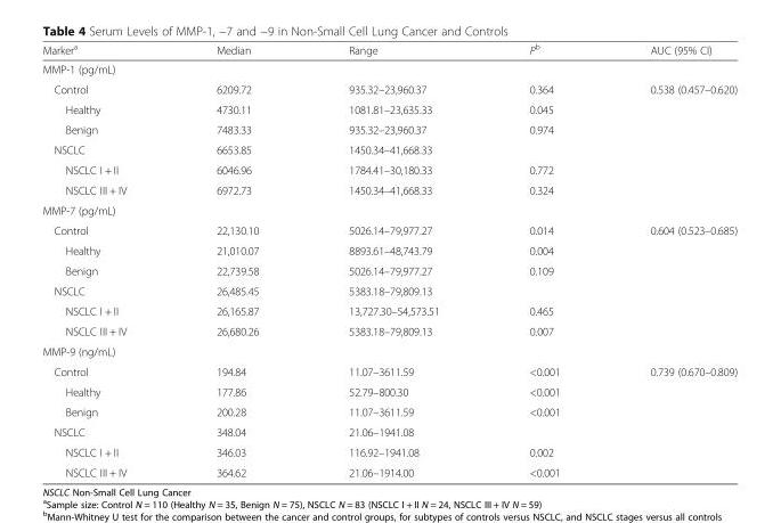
<table><thead><tr><td>Marker<sup>a</sup></td><td>Median</td><td>Range</td><td>P<sup>b</sup></td><td>AUC (95% CI)</td></tr></thead><tbody><tr><td colspan="5">MMP-1 (pg/mL)</td></tr><tr><td>Control</td><td>6209.72</td><td>935.32–23,960.37</td><td>0.364</td><td>0.538 (0.457–0.620)</td></tr><tr><td>Healthy</td><td>4730.11</td><td>1081.81–23,635.33</td><td>0.045</td><td></td></tr><tr><td>Benign</td><td>7483.33</td><td>935.32–23,960.37</td><td>0.974</td><td></td></tr><tr><td>NSCLC</td><td>6653.85</td><td>1450.34–41,668.33</td><td></td><td></td></tr><tr><td>NSCLC I + II</td><td>6046.96</td><td>1784.41–30,180.33</td><td>0.772</td><td></td></tr><tr><td>NSCLC III + IV</td><td>6972.73</td><td>1450.34–41,668.33</td><td>0.324</td><td></td></tr><tr><td colspan="5">MMP-7 (pg/mL)</td></tr><tr><td>Control</td><td>22,130.10</td><td>5026.14–79,977.27</td><td>0.014</td><td>0.604 (0.523–0.685)</td></tr><tr><td>Healthy</td><td>21,010.07</td><td>8893.61–48,743.79</td><td>0.004</td><td></td></tr><tr><td>Benign</td><td>22,739.58</td><td>5026.14–79,977.27</td><td>0.109</td><td></td></tr><tr><td>NSCLC</td><td>26,485.45</td><td>5383.18–79,809.13</td><td></td><td></td></tr><tr><td>NSCLC I + II</td><td>26,165.87</td><td>13,727.30–54,573.51</td><td>0.465</td><td></td></tr><tr><td>NSCLC III + IV</td><td>26,680.26</td><td>5383.18–79,809.13</td><td>0.007</td><td></td></tr><tr><td colspan="5">MMP-9 (ng/mL)</td></tr><tr><td>Control</td><td>194.84</td><td>11.07–3611.59</td><td>&lt;0.001</td><td>0.739 (0.670–0.809)</td></tr><tr><td>Healthy</td><td>177.86</td><td>52.79–800.30</td><td>&lt;0.001</td><td></td></tr><tr><td>Benign</td><td>200.28</td><td>11.07–3611.59</td><td>&lt;0.001</td><td></td></tr><tr><td>NSCLC</td><td>348.04</td><td>21.06–1941.08</td><td></td><td></td></tr><tr><td>NSCLC I + II</td><td>346.03</td><td>116.92–1941.08</td><td>0.002</td><td></td></tr><tr><td>NSCLC III + IV</td><td>364.62</td><td>21.06–1914.00</td><td>&lt;0.001</td><td></td></tr></tbody></table>